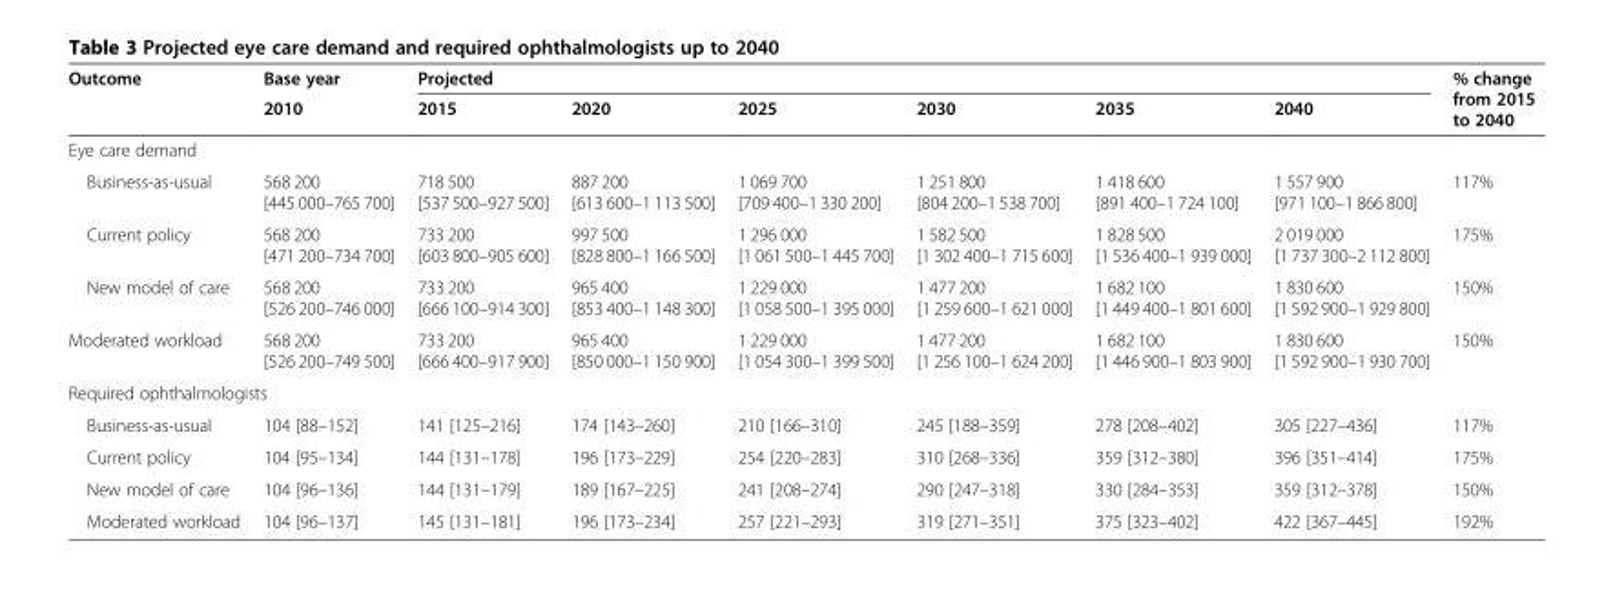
<table><thead><tr><td rowspan="2">Outcome</td><td rowspan="2">Base year 2010</td><td colspan="6">Projected</td><td rowspan="2">% change from 2015 to 2040</td></tr><tr><td>2015</td><td>2020</td><td>2025</td><td>2030</td><td>2035</td><td>2040</td></tr></thead><tbody><tr><td colspan="9">Eye care demand</td></tr><tr><td>Business-as-usual</td><td>568 200 [445 000–765 700]</td><td>718 500 [537 500–927 500]</td><td>887 200 [613 600–1 113 500]</td><td>1 069 700 [709 400–1 330 200]</td><td>1 251 800 [804 200–1 538 700]</td><td>1 418 600 [891 400–1 724 100]</td><td>1 557 900 [971 100–1 866 800]</td><td>117%</td></tr><tr><td>Current policy</td><td>568 200 [471 200–734 700]</td><td>733 200 [603 800–905 600]</td><td>997 500 [828 800–1 166 500]</td><td>1 296 000 [1 061 500–1 445 700]</td><td>1 582 500 [1 302 400–1 715 600]</td><td>1 828 500 [1 536 400–1 939 000]</td><td>2 019 000 [1 737 300–2 112 800]</td><td>175%</td></tr><tr><td>New model of care</td><td>568 200 [526 200–746 000]</td><td>733 200 [666 100–914 300]</td><td>965 400 [853 400–1 148 300]</td><td>1 229 000 [1 058 500–1 395 000]</td><td>1 477 200 [1 259 600–1 621 000]</td><td>1 682 100 [1 449 400–1 801 600]</td><td>1 830 600 [1 592 900–1 929 800]</td><td>150%</td></tr><tr><td>Moderated workload</td><td>568 200 [526 200–749 500]</td><td>733 200 [666 400–917 900]</td><td>965 400 [850 000–1 150 900]</td><td>1 229 000 [1 054 300–1 399 500]</td><td>1 477 200 [1 256 100–1 624 200]</td><td>1 682 100 [1 446 900–1 803 900]</td><td>1 830 600 [1 592 900–1 930 700]</td><td>150%</td></tr><tr><td colspan="9">Required ophthalmologists</td></tr><tr><td>Business-as-usual</td><td>104 [88–152]</td><td>141 [125–216]</td><td>174 [143–260]</td><td>210 [166–310]</td><td>245 [188–359]</td><td>278 [208–402]</td><td>305 [227–436]</td><td>117%</td></tr><tr><td>Current policy</td><td>104 [95–134]</td><td>144 [131–178]</td><td>196 [173–229]</td><td>254 [220–283]</td><td>310 [268–336]</td><td>359 [312–380]</td><td>396 [351–414]</td><td>175%</td></tr><tr><td>New model of care</td><td>104 [96–136]</td><td>144 [131–179]</td><td>189 [167–225]</td><td>241 [208–274]</td><td>290 [247–318]</td><td>330 [284–353]</td><td>359 [312–378]</td><td>150%</td></tr><tr><td>Moderated workload</td><td>104 [96–137]</td><td>145 [131–181]</td><td>196 [173–234]</td><td>257 [221–293]</td><td>319 [271–351]</td><td>375 [323–402]</td><td>422 [367–445]</td><td>192%</td></tr></tbody></table>